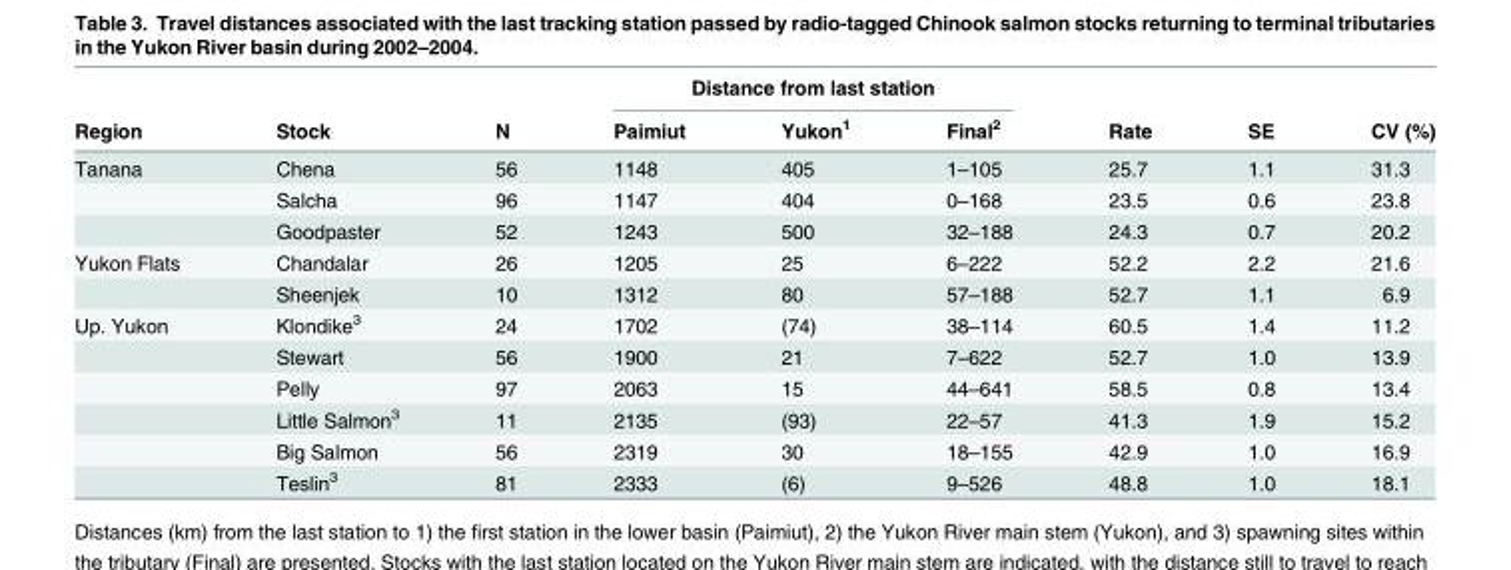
<table><thead><tr><td rowspan="2">Region</td><td rowspan="2">Stock</td><td rowspan="2">N</td><td colspan="3">Distance from last station</td><td rowspan="2">Rate</td><td rowspan="2">SE</td><td rowspan="2">CV (%)</td></tr><tr><td>Paimiut</td><td>Yukon<sup>1</sup></td><td>Final<sup>2</sup></td></tr></thead><tbody><tr><td rowspan="3">Tanana</td><td>Chena</td><td>56</td><td>1148</td><td>405</td><td>1–105</td><td>25.7</td><td>1.1</td><td>31.3</td></tr><tr><td>Salcha</td><td>96</td><td>1147</td><td>404</td><td>0–168</td><td>23.5</td><td>0.6</td><td>23.8</td></tr><tr><td>Goodpaster</td><td>52</td><td>1243</td><td>500</td><td>32–188</td><td>24.3</td><td>0.7</td><td>20.2</td></tr><tr><td rowspan="2">Yukon Flats</td><td>Chandalar</td><td>26</td><td>1205</td><td>25</td><td>6–222</td><td>52.2</td><td>2.2</td><td>21.6</td></tr><tr><td>Sheenjek</td><td>10</td><td>1312</td><td>80</td><td>57–188</td><td>52.7</td><td>1.1</td><td>6.9</td></tr><tr><td rowspan="6">Up. Yukon</td><td>Klondike<sup>3</sup></td><td>24</td><td>1702</td><td>(74)</td><td>38–114</td><td>60.5</td><td>1.4</td><td>11.2</td></tr><tr><td>Stewart</td><td>56</td><td>1900</td><td>21</td><td>7–622</td><td>52.7</td><td>1.0</td><td>13.9</td></tr><tr><td>Pelly</td><td>97</td><td>2063</td><td>15</td><td>44–641</td><td>58.5</td><td>0.8</td><td>13.4</td></tr><tr><td>Little Salmon<sup>3</sup></td><td>11</td><td>2135</td><td>(93)</td><td>22–57</td><td>41.3</td><td>1.9</td><td>15.2</td></tr><tr><td>Big Salmon</td><td>56</td><td>2319</td><td>30</td><td>18–155</td><td>42.9</td><td>1.0</td><td>16.9</td></tr><tr><td>Teslin<sup>3</sup></td><td>81</td><td>2333</td><td>(6)</td><td>9–526</td><td>48.8</td><td>1.0</td><td>18.1</td></tr></tbody></table>